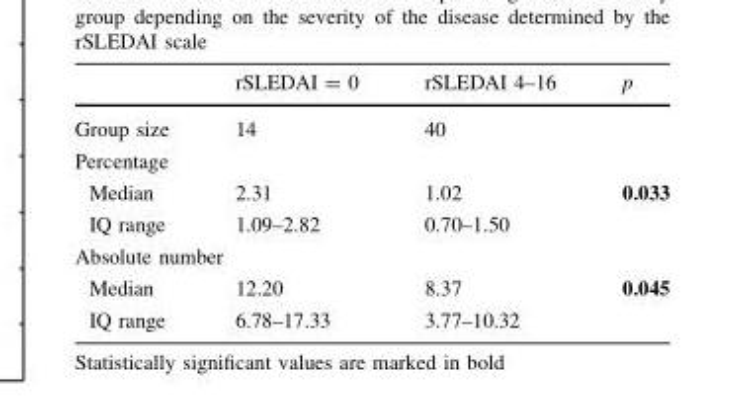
<table><thead><tr><td></td><td>rSLEDAI = 0</td><td>rSLEDAI 4–16</td><td>p</td></tr></thead><tbody><tr><td>Group size</td><td>14</td><td>40</td><td></td></tr><tr><td colspan="4">Percentage</td></tr><tr><td>Median</td><td>2.31</td><td>1.02</td><td rowspan="2">0.033</td></tr><tr><td>IQ range</td><td>1.09–2.82</td><td>0.70–1.50</td></tr><tr><td colspan="4">Absolute number</td></tr><tr><td>Median</td><td>12.20</td><td>8.37</td><td rowspan="2">0.045</td></tr><tr><td>IQ range</td><td>6.78–17.33</td><td>3.77–10.32</td></tr></tbody></table>